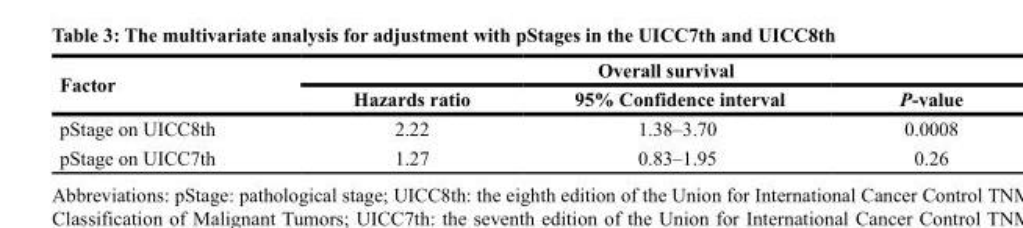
<table><thead><tr><td rowspan="2">Factor</td><td colspan="3">Overall survival</td></tr><tr><td>Hazards ratio</td><td>95% Confidence interval</td><td>P-value</td></tr></thead><tbody><tr><td>pStage on UICC8th</td><td>2.22</td><td>1.38–3.70</td><td>0.0008</td></tr><tr><td>pStage on UICC7th</td><td>1.27</td><td>0.83–1.95</td><td>0.26</td></tr></tbody></table>